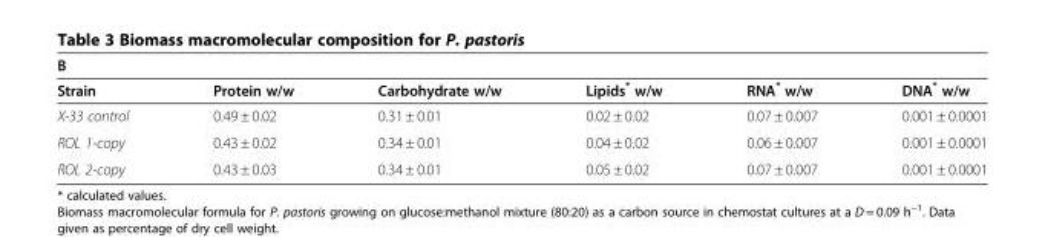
<table><thead><tr><td colspan="6">B</td></tr><tr><td>Strain</td><td>Protein w/w</td><td>Carbohydrate w/w</td><td>Lipids* w/w</td><td>RNA* w/w</td><td>DNA* w/w</td></tr></thead><tbody><tr><td>X-33 control</td><td>0.49 ± 0.02</td><td>0.31 ± 0.01</td><td>0.02 ± 0.02</td><td>0.07 ± 0.007</td><td>0.001 ± 0.0001</td></tr><tr><td>ROL 1-copy</td><td>0.43 ± 0.02</td><td>0.34 ± 0.01</td><td>0.04 ± 0.02</td><td>0.06 ± 0.007</td><td>0.001 ± 0.0001</td></tr><tr><td>ROL 2-copy</td><td>0.43 ± 0.03</td><td>0.34 ± 0.01</td><td>0.05 ± 0.02</td><td>0.07 ± 0.007</td><td>0.001 ± 0.0001</td></tr></tbody></table>